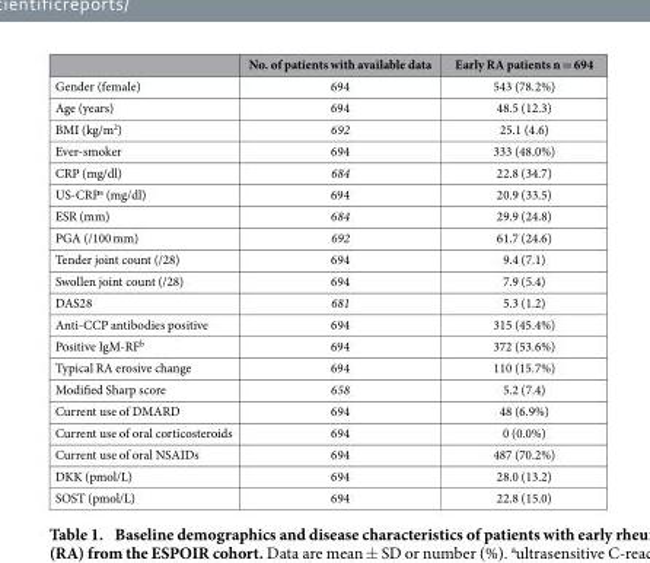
<table><thead><tr><td></td><td>No. of patients with available data</td><td>Early RA patients n = 694</td></tr></thead><tbody><tr><td>Gender (female)</td><td>694</td><td>543 (78.2%)</td></tr><tr><td>Age (years)</td><td>694</td><td>48.5 (12.3)</td></tr><tr><td>BMI (kg/m<sup>2</sup>)</td><td>692</td><td>25.1 (4.6)</td></tr><tr><td>Ever-smoker</td><td>694</td><td>333 (48.0%)</td></tr><tr><td>CRP (mg/dl)</td><td>684</td><td>22.8 (34.7)</td></tr><tr><td>US-CRP<sup>a</sup> (mg/dl)</td><td>694</td><td>20.9 (33.5)</td></tr><tr><td>ESR (mm)</td><td>684</td><td>29.9 (24.8)</td></tr><tr><td>PGA (/100 mm)</td><td>692</td><td>61.7 (24.6)</td></tr><tr><td>Tender joint count (/28)</td><td>694</td><td>9.4 (7.1)</td></tr><tr><td>Swollen joint count (/28)</td><td>694</td><td>7.9 (5.4)</td></tr><tr><td>DAS28</td><td>681</td><td>5.3 (1.2)</td></tr><tr><td>Anti-CCP antibodies positive</td><td>694</td><td>315 (45.4%)</td></tr><tr><td>Positive IgM-RF<sup>b</sup></td><td>694</td><td>372 (53.6%)</td></tr><tr><td>Typical RA erosive change</td><td>694</td><td>110 (15.7%)</td></tr><tr><td>Modified Sharp score</td><td>658</td><td>5.2 (7.4)</td></tr><tr><td>Current use of DMARD</td><td>694</td><td>48 (6.9%)</td></tr><tr><td>Current use of oral corticosteroids</td><td>694</td><td>0 (0.0%)</td></tr><tr><td>Current use of oral NSAIDs</td><td>694</td><td>487 (70.2%)</td></tr><tr><td>DKK (pmol/L)</td><td>694</td><td>28.0 (13.2)</td></tr><tr><td>SOST (pmol/L)</td><td>694</td><td>22.8 (15.0)</td></tr></tbody></table>